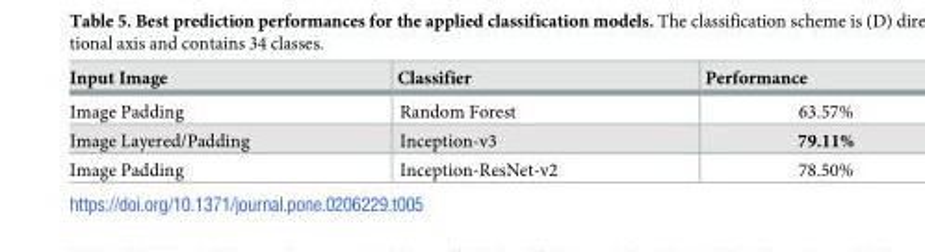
<table><thead><tr><td>Input Image</td><td>Classifier</td><td>Performance</td></tr></thead><tbody><tr><td>Image Padding</td><td>Random Forest</td><td>63.57%</td></tr><tr><td>Image Layered/Padding</td><td>Inception-v3</td><td>79.11%</td></tr><tr><td>Image Padding</td><td>Inception-ResNet-v2</td><td>78.50%</td></tr></tbody></table>